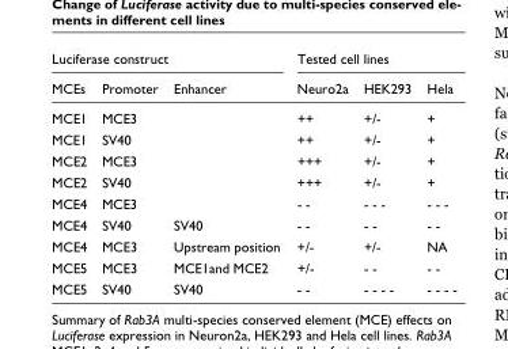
<table><thead><tr><td colspan="3">Luciferase construct</td><td colspan="3">Tested cell lines</td></tr><tr><td>MCEs</td><td>Promoter</td><td>Enhancer</td><td>Neuro2a</td><td>HEK293</td><td>Hela</td></tr></thead><tbody><tr><td>MCE1</td><td>MCE3</td><td></td><td>++</td><td>+/-</td><td>+</td></tr><tr><td>MCE1</td><td>SV40</td><td></td><td>++</td><td>+/-</td><td>+</td></tr><tr><td>MCE2</td><td>MCE3</td><td></td><td>+++</td><td>+/-</td><td>+</td></tr><tr><td>MCE2</td><td>SV40</td><td></td><td>+++</td><td>+/-</td><td>+</td></tr><tr><td>MCE4</td><td>MCE3</td><td></td><td>- -</td><td>- - -</td><td>- - -</td></tr><tr><td>MCE4</td><td>SV40</td><td>SV40</td><td>- -</td><td>- -</td><td>- -</td></tr><tr><td>MCE4</td><td>MCE3</td><td>Upstream position</td><td>+/-</td><td>+/-</td><td>NA</td></tr><tr><td>MCE5</td><td>MCE3</td><td>MCE1and MCE2</td><td>+/-</td><td>- -</td><td>- -</td></tr><tr><td>MCE5</td><td>SV40</td><td>SV40</td><td>- -</td><td>- - - -</td><td>- - - -</td></tr></tbody></table>